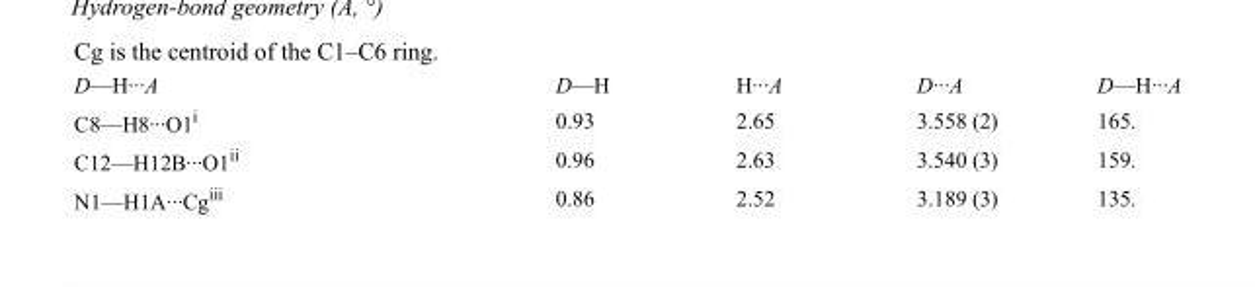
<table><tbody><tr><td>D—H···A</td><td>D—H</td><td>H···A</td><td>D···A</td><td>D—H···A</td></tr><tr><td>C8—H8···O1<sup>i</sup></td><td>0.93</td><td>2.65</td><td>3.558 (2)</td><td>165.</td></tr><tr><td>C12—H12B···O1<sup>ii</sup></td><td>0.96</td><td>2.63</td><td>3.540 (3)</td><td>159.</td></tr><tr><td>N1—H1A···Cg<sup>iii</sup></td><td>0.86</td><td>2.52</td><td>3.189 (3)</td><td>135.</td></tr></tbody></table>